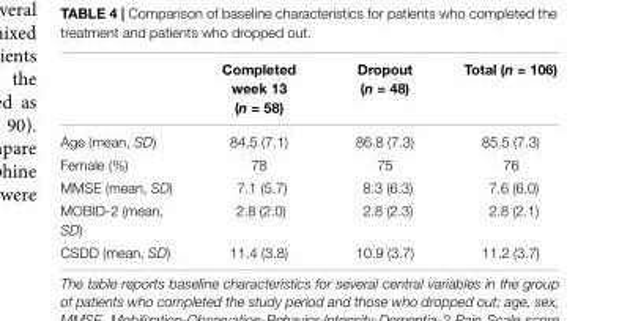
<table><thead><tr><td></td><td>Completed week 13 (n = 58)</td><td>Dropout (n = 48)</td><td>Total (n = 106)</td></tr></thead><tbody><tr><td>Age (mean, SD)</td><td>84.5 (7.1)</td><td>86.8 (7.3)</td><td>85.5 (7.3)</td></tr><tr><td>Female (%)</td><td>78</td><td>75</td><td>76</td></tr><tr><td>MMSE (mean, SD)</td><td>7.1 (5.7)</td><td>8.3 (6.3)</td><td>7.6 (6.0)</td></tr><tr><td>MOBID-2 (mean, SD)</td><td>2.8 (2.0)</td><td>2.8 (2.3)</td><td>2.8 (2.1)</td></tr><tr><td>CSDD (mean, SD)</td><td>11.4 (3.8)</td><td>10.9 (3.7)</td><td>11.2 (3.7)</td></tr></tbody></table>